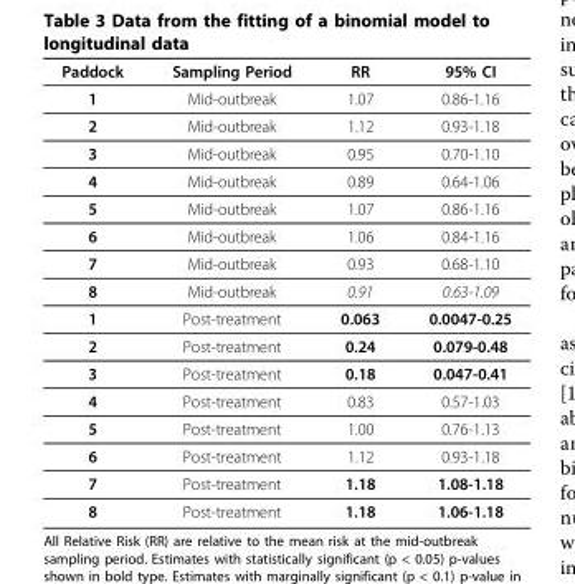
<table><thead><tr><td>Paddock</td><td>Sampling Period</td><td>RR</td><td>95% CI</td></tr></thead><tbody><tr><td>1</td><td>Mid-outbreak</td><td>1.07</td><td>0.86-1.16</td></tr><tr><td>2</td><td>Mid-outbreak</td><td>1.12</td><td>0.93-1.18</td></tr><tr><td>3</td><td>Mid-outbreak</td><td>0.95</td><td>0.70-1.10</td></tr><tr><td>4</td><td>Mid-outbreak</td><td>0.89</td><td>0.64-1.06</td></tr><tr><td>5</td><td>Mid-outbreak</td><td>1.07</td><td>0.86-1.16</td></tr><tr><td>6</td><td>Mid-outbreak</td><td>1.06</td><td>0.84-1.16</td></tr><tr><td>7</td><td>Mid-outbreak</td><td>0.93</td><td>0.68-1.10</td></tr><tr><td>8</td><td>Mid-outbreak</td><td>0.91</td><td>0.63-1.09</td></tr><tr><td>1</td><td>Post-treatment</td><td>0.063</td><td>0.0047-0.25</td></tr><tr><td>2</td><td>Post-treatment</td><td>0.24</td><td>0.079-0.48</td></tr><tr><td>3</td><td>Post-treatment</td><td>0.18</td><td>0.047-0.41</td></tr><tr><td>4</td><td>Post-treatment</td><td>0.83</td><td>0.57-1.03</td></tr><tr><td>5</td><td>Post-treatment</td><td>1.00</td><td>0.76-1.13</td></tr><tr><td>6</td><td>Post-treatment</td><td>1.12</td><td>0.93-1.18</td></tr><tr><td>7</td><td>Post-treatment</td><td>1.18</td><td>1.08-1.18</td></tr><tr><td>8</td><td>Post-treatment</td><td>1.18</td><td>1.06-1.18</td></tr></tbody></table>